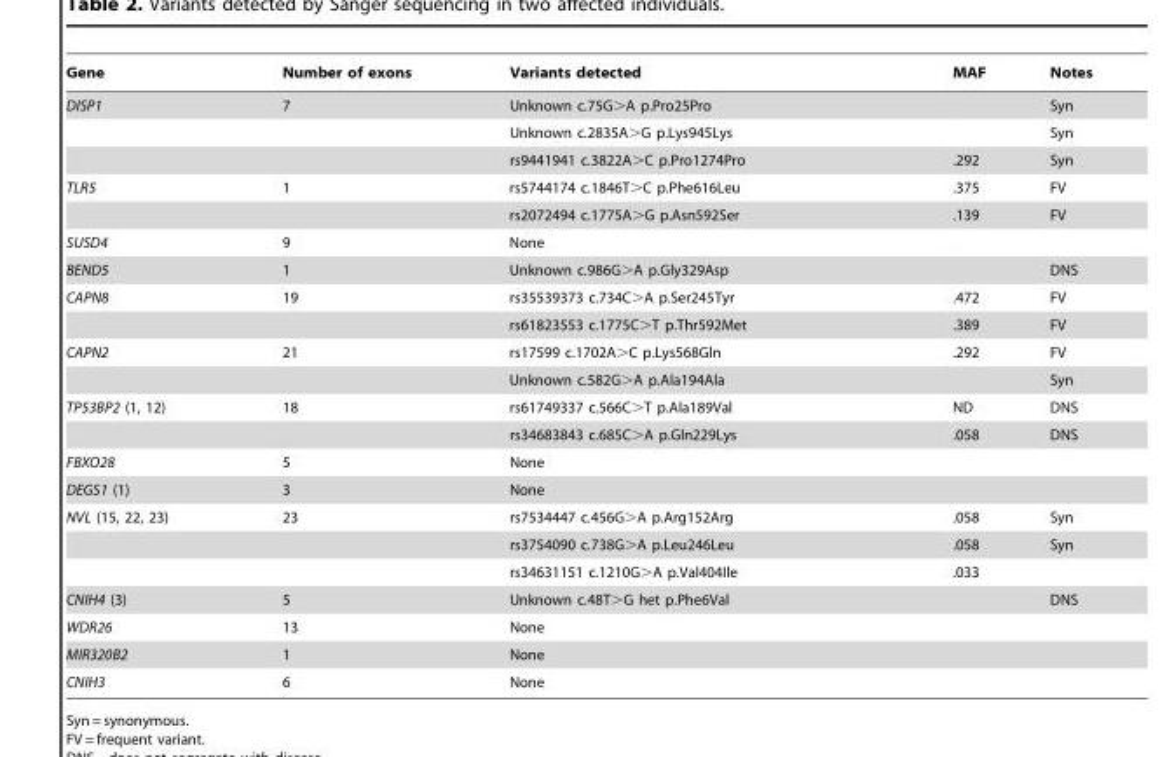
<table><thead><tr><td>Gene</td><td>Number of exons</td><td>Variants detected</td><td>MAF</td><td>Notes</td></tr></thead><tbody><tr><td rowspan="3">DISP1</td><td>7</td><td>Unknown c.75G&gt;A p.Pro25Pro</td><td></td><td>Syn</td></tr><tr><td></td><td>Unknown c.2835A&gt;G p.Lys945Lys</td><td></td><td>Syn</td></tr><tr><td></td><td>rs9441941 c.3822A&gt;C p.Pro1274Pro</td><td>.292</td><td>Syn</td></tr><tr><td rowspan="2">TLR5</td><td>1</td><td>rs5744174 c.1846T&gt;C p.Phe616Leu</td><td>.375</td><td>FV</td></tr><tr><td></td><td>rs2072494 c.1775A&gt;G p.Asn592Ser</td><td>.139</td><td>FV</td></tr><tr><td>SUSD4</td><td>9</td><td>None</td><td></td><td></td></tr><tr><td>BEND5</td><td>1</td><td>Unknown c.986G&gt;A p.Gly329Asp</td><td></td><td>DNS</td></tr><tr><td rowspan="2">CAPN8</td><td>19</td><td>rs35539373 c.734C&gt;A p.Ser245Tyr</td><td>.472</td><td>FV</td></tr><tr><td></td><td>rs61823553 c.1775C&gt;T p.Thr592Met</td><td>.389</td><td>FV</td></tr><tr><td rowspan="2">CAPN2</td><td>21</td><td>rs17599 c.1702A&gt;C p.Lys568Gln</td><td>.292</td><td>FV</td></tr><tr><td></td><td>Unknown c.582G&gt;A p.Ala194Ala</td><td></td><td>Syn</td></tr><tr><td rowspan="2">TP53BP2 (1, 12)</td><td>18</td><td>rs61749337 c.566C&gt;T p.Ala189Val</td><td>ND</td><td>DNS</td></tr><tr><td></td><td>rs34683843 c.685C&gt;A p.Gln229Lys</td><td>.058</td><td>DNS</td></tr><tr><td>FBXO28</td><td>5</td><td>None</td><td></td><td></td></tr><tr><td>DEGS1 (1)</td><td>3</td><td>None</td><td></td><td></td></tr><tr><td rowspan="3">NVL (15, 22, 23)</td><td>23</td><td>rs7534447 c.456G&gt;A p.Arg152Arg</td><td>.058</td><td>Syn</td></tr><tr><td></td><td>rs3754090 c.738G&gt;A p.Leu246Leu</td><td>.058</td><td>Syn</td></tr><tr><td></td><td>rs34631151 c.1210G&gt;A p.Val404Ile</td><td>.033</td><td></td></tr><tr><td>CNIH4 (3)</td><td>5</td><td>Unknown c.48T&gt;G het p.Phe6Val</td><td></td><td>DNS</td></tr><tr><td>WDR26</td><td>13</td><td>None</td><td></td><td></td></tr><tr><td>MIR320B2</td><td>1</td><td>None</td><td></td><td></td></tr><tr><td>CNIH3</td><td>6</td><td>None</td><td></td><td></td></tr></tbody></table>